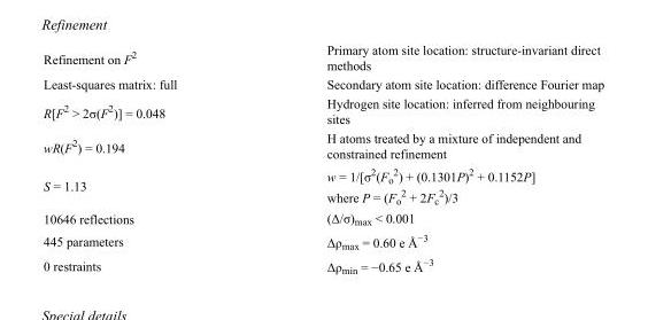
<table><tbody><tr><td>Refinement on F<sup>2</sup></td><td>Primary atom site location: structure-invariant direct methods</td></tr><tr><td>Least-squares matrix: full</td><td>Secondary atom site location: difference Fourier map</td></tr><tr><td>R[F<sup>2</sup> &gt; 2σ(F<sup>2</sup>)] = 0.048</td><td>Hydrogen site location: inferred from neighbouring sites</td></tr><tr><td>wR(F<sup>2</sup>) = 0.194</td><td>H atoms treated by a mixture of independent and constrained refinement</td></tr><tr><td>S = 1.13</td><td>w = 1/[σ<sup>2</sup>(F<sub>o</sub> <sup>2</sup>) + (0.1301P)<sup>2</sup> + 0.1152P] where P = (F<sub>o</sub> <sup>2</sup> + 2F<sub>c</sub> <sup>2</sup>)/3</td></tr><tr><td>10646 reflections</td><td>(Δ/σ)<sub>max</sub> &lt; 0.001</td></tr><tr><td>445 parameters</td><td>Δρ<sub>max</sub> = 0.60 e Å<sup>−3</sup></td></tr><tr><td>0 restraints</td><td>Δρ<sub>min</sub> = −0.65 e Å<sup>−3</sup></td></tr></tbody></table>